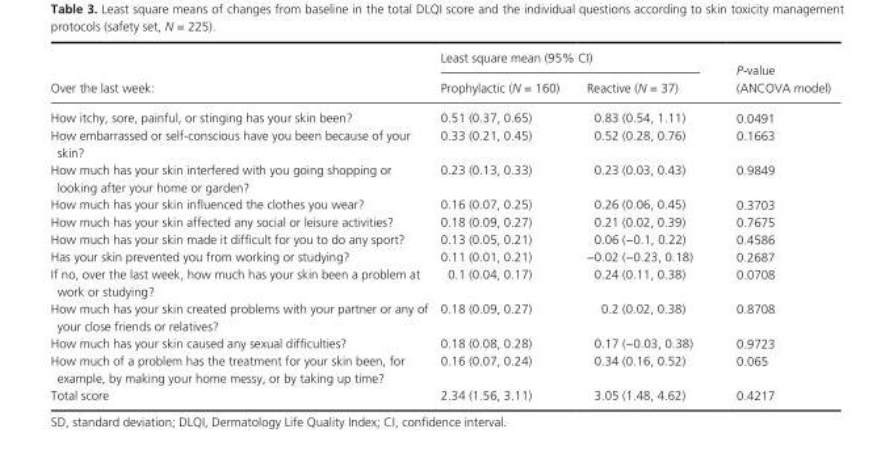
<table><thead><tr><td rowspan="2">Over the last week:</td><td colspan="2">Least square mean (95% CI)</td><td rowspan="2">P- value (ANCOVA model)</td></tr><tr><td>Prophylactic (N = 160)</td><td>Reactive (N = 37)</td></tr></thead><tbody><tr><td>How itchy, sore, painful, or stinging has your skin been?</td><td>0.51 (0.37, 0.65)</td><td>0.83 (0.54, 1.11)</td><td>0.0491</td></tr><tr><td>How embarrassed or self- conscious have you been because of your skin?</td><td>0.33 (0.21, 0.45)</td><td>0.52 (0.28, 0.76)</td><td>0.1663</td></tr><tr><td>How much has your skin interfered with you going shopping or looking after your home or garden?</td><td>0.23 (0.13, 0.33)</td><td>0.23 (0.03, 0.43)</td><td>0.9849</td></tr><tr><td>How much has your skin influenced the clothes you wear?</td><td>0.16 (0.07, 0.25)</td><td>0.26 (0.06, 0.45)</td><td>0.3703</td></tr><tr><td>How much has your skin affected any social or leisure activities?</td><td>0.18 (0.09, 0.27)</td><td>0.21 (0.02, 0.39)</td><td>0.7675</td></tr><tr><td>How much has your skin made it difficult for you to do any sport?</td><td>0.13 (0.05, 0.21)</td><td>0.06 (−0.1, 0.22)</td><td>0.4586</td></tr><tr><td>Has your skin prevented you from working or studying?</td><td>0.11 (0.01, 0.21)</td><td>−0.02 (−0.23, 0.18)</td><td>0.2687</td></tr><tr><td>If no, over the last week, how much has your skin been a problem at work or studying?</td><td>0.1 (0.04, 0.17)</td><td>0.24 (0.11, 0.38)</td><td>0.0708</td></tr><tr><td>How much has your skin created problems with your partner or any of your close friends or relatives?</td><td>0.18 (0.09, 0.27)</td><td>0.2 (0.02, 0.38)</td><td>0.8708</td></tr><tr><td>How much has your skin caused any sexual difficulties?</td><td>0.18 (0.08, 0.28)</td><td>0.17 (−0.03, 0.38)</td><td>0.9723</td></tr><tr><td>How much of a problem has the treatment for your skin been, for example, by making your home messy, or by taking up time?</td><td>0.16 (0.07, 0.24)</td><td>0.34 (0.16, 0.52)</td><td>0.065</td></tr><tr><td>Total score</td><td>2.34 (1.56, 3.11)</td><td>3.05 (1.48, 4.62)</td><td>0.4217</td></tr></tbody></table>